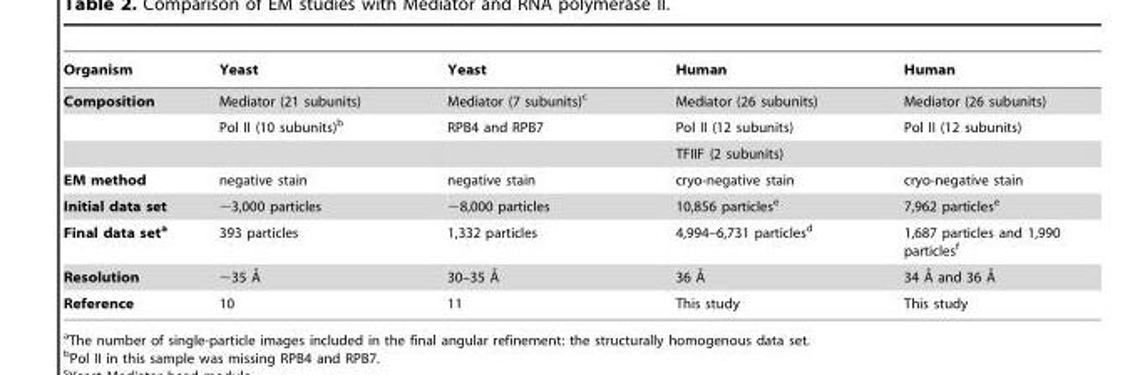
<table><thead><tr><td>Organism</td><td>Yeast</td><td>Yeast</td><td>Human</td><td>Human</td></tr></thead><tbody><tr><td rowspan="3">Composition</td><td>Mediator (21 subunits)</td><td>Mediator (7 subunits)<sup>c</sup></td><td>Mediator (26 subunits)</td><td>Mediator (26 subunits)</td></tr><tr><td>Pol II (10 subunits)<sup>b</sup></td><td>RPB4 and RPB7</td><td>Pol II (12 subunits)</td><td>Pol II (12 subunits)</td></tr><tr><td></td><td></td><td>TFIIF (2 subunits)</td><td></td></tr><tr><td>EM method</td><td>negative stain</td><td>negative stain</td><td>cryo-negative stain</td><td>cryo-negative stain</td></tr><tr><td>Initial data set</td><td>∼3,000 particles</td><td>∼8,000 particles</td><td>10,856 particles<sup>e</sup></td><td>7,962 particles<sup>e</sup></td></tr><tr><td>Final data seta</td><td>393 particles</td><td>1,332 particles</td><td>4,994–6,731 particles<sup>d</sup></td><td>1,687 particles and 1,990 particles<sup>f</sup></td></tr><tr><td>Resolution</td><td>,35 A˚</td><td>30–35 A˚</td><td>36 A˚</td><td>34 A˚ and 36 A˚</td></tr><tr><td>Reference</td><td>10</td><td>11</td><td>This study</td><td>This study</td></tr></tbody></table>